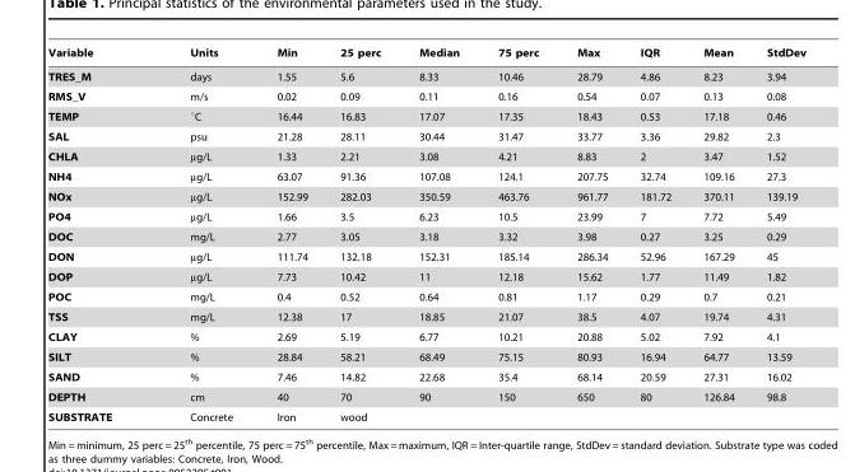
<table><thead><tr><td>Variable</td><td>Units</td><td>Min</td><td>25 perc</td><td>Median</td><td>75 perc</td><td>Max</td><td>IQR</td><td>Mean</td><td>StdDev</td></tr></thead><tbody><tr><td>TRES_M</td><td>days</td><td>1.55</td><td>5.6</td><td>8.33</td><td>10.46</td><td>28.79</td><td>4.86</td><td>8.23</td><td>3.94</td></tr><tr><td>RMS_V</td><td>m/s</td><td>0.02</td><td>0.09</td><td>0.11</td><td>0.16</td><td>0.54</td><td>0.07</td><td>0.13</td><td>0.08</td></tr><tr><td>TEMP</td><td>°C</td><td>16.44</td><td>16.83</td><td>17.07</td><td>17.35</td><td>18.43</td><td>0.53</td><td>17.18</td><td>0.46</td></tr><tr><td>SAL</td><td>psu</td><td>21.28</td><td>28.11</td><td>30.44</td><td>31.47</td><td>33.77</td><td>3.36</td><td>29.82</td><td>2.3</td></tr><tr><td>CHLA</td><td>µg/L</td><td>1.33</td><td>2.21</td><td>3.08</td><td>4.21</td><td>8.83</td><td>2</td><td>3.47</td><td>1.52</td></tr><tr><td>NH4</td><td>µg/L</td><td>63.07</td><td>91.36</td><td>107.08</td><td>124.1</td><td>207.75</td><td>32.74</td><td>109.16</td><td>27.3</td></tr><tr><td>NOx</td><td>µg/L</td><td>152.99</td><td>282.03</td><td>350.59</td><td>463.76</td><td>961.77</td><td>181.72</td><td>370.11</td><td>139.19</td></tr><tr><td>PO4</td><td>µg/L</td><td>1.66</td><td>3.5</td><td>6.23</td><td>10.5</td><td>23.99</td><td>7</td><td>7.72</td><td>5.49</td></tr><tr><td>DOC</td><td>mg/L</td><td>2.77</td><td>3.05</td><td>3.18</td><td>3.32</td><td>3.98</td><td>0.27</td><td>3.25</td><td>0.29</td></tr><tr><td>DON</td><td>µg/L</td><td>111.74</td><td>132.18</td><td>152.31</td><td>185.14</td><td>286.34</td><td>52.96</td><td>167.29</td><td>45</td></tr><tr><td>DOP</td><td>µg/L</td><td>7.73</td><td>10.42</td><td>11</td><td>12.18</td><td>15.62</td><td>1.77</td><td>11.49</td><td>1.82</td></tr><tr><td>POC</td><td>mg/L</td><td>0.4</td><td>0.52</td><td>0.64</td><td>0.81</td><td>1.17</td><td>0.29</td><td>0.7</td><td>0.21</td></tr><tr><td>TSS</td><td>mg/L</td><td>12.38</td><td>17</td><td>18.85</td><td>21.07</td><td>38.5</td><td>4.07</td><td>19.74</td><td>4.31</td></tr><tr><td>CLAY</td><td>%</td><td>2.69</td><td>5.19</td><td>6.77</td><td>10.21</td><td>20.88</td><td>5.02</td><td>7.92</td><td>4.1</td></tr><tr><td>SILT</td><td>%</td><td>28.84</td><td>58.21</td><td>68.49</td><td>75.15</td><td>80.93</td><td>16.94</td><td>64.77</td><td>13.59</td></tr><tr><td>SAND</td><td>%</td><td>7.46</td><td>14.82</td><td>22.68</td><td>35.4</td><td>68.14</td><td>20.59</td><td>27.31</td><td>16.02</td></tr><tr><td>DEPTH</td><td>cm</td><td>40</td><td>70</td><td>90</td><td>150</td><td>650</td><td>80</td><td>126.84</td><td>98.8</td></tr><tr><td>SUBSTRATE</td><td>Concrete</td><td>Iron</td><td>wood</td><td></td><td></td><td></td><td></td><td></td><td></td></tr></tbody></table>